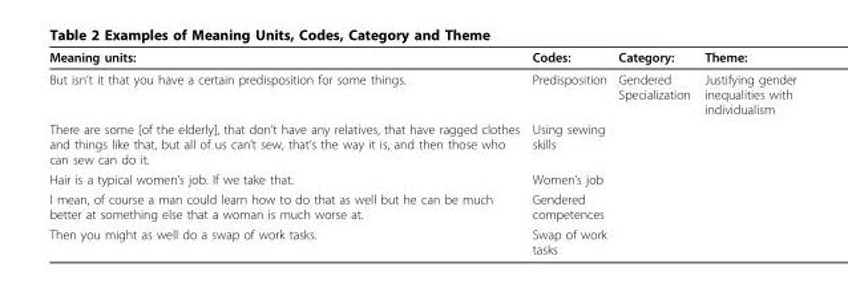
<table><thead><tr><td>Meaning units:</td><td>Codes:</td><td>Category:</td><td>Theme:</td></tr></thead><tbody><tr><td>But isn’t it that you have a certain predisposition for some things.</td><td>Predisposition</td><td>Gendered Specialization</td><td>Justifying gender inequalities with individualism</td></tr><tr><td>There are some [of the elderly], that don’t have any relatives, that have ragged clothes and things like that, but all of us can’t sew, that’s the way it is, and then those who can sew can do it.</td><td>Using sewing skills</td><td></td><td></td></tr><tr><td>Hair is a typical women’s job. If we take that.</td><td>Women’s job</td><td></td><td></td></tr><tr><td>I mean, of course a man could learn how to do that as well but he can be much better at something else that a woman is much worse at.</td><td>Gendered competences</td><td></td><td></td></tr><tr><td>Then you might as well do a swap of work tasks.</td><td>Swap of work tasks</td><td></td><td></td></tr></tbody></table>